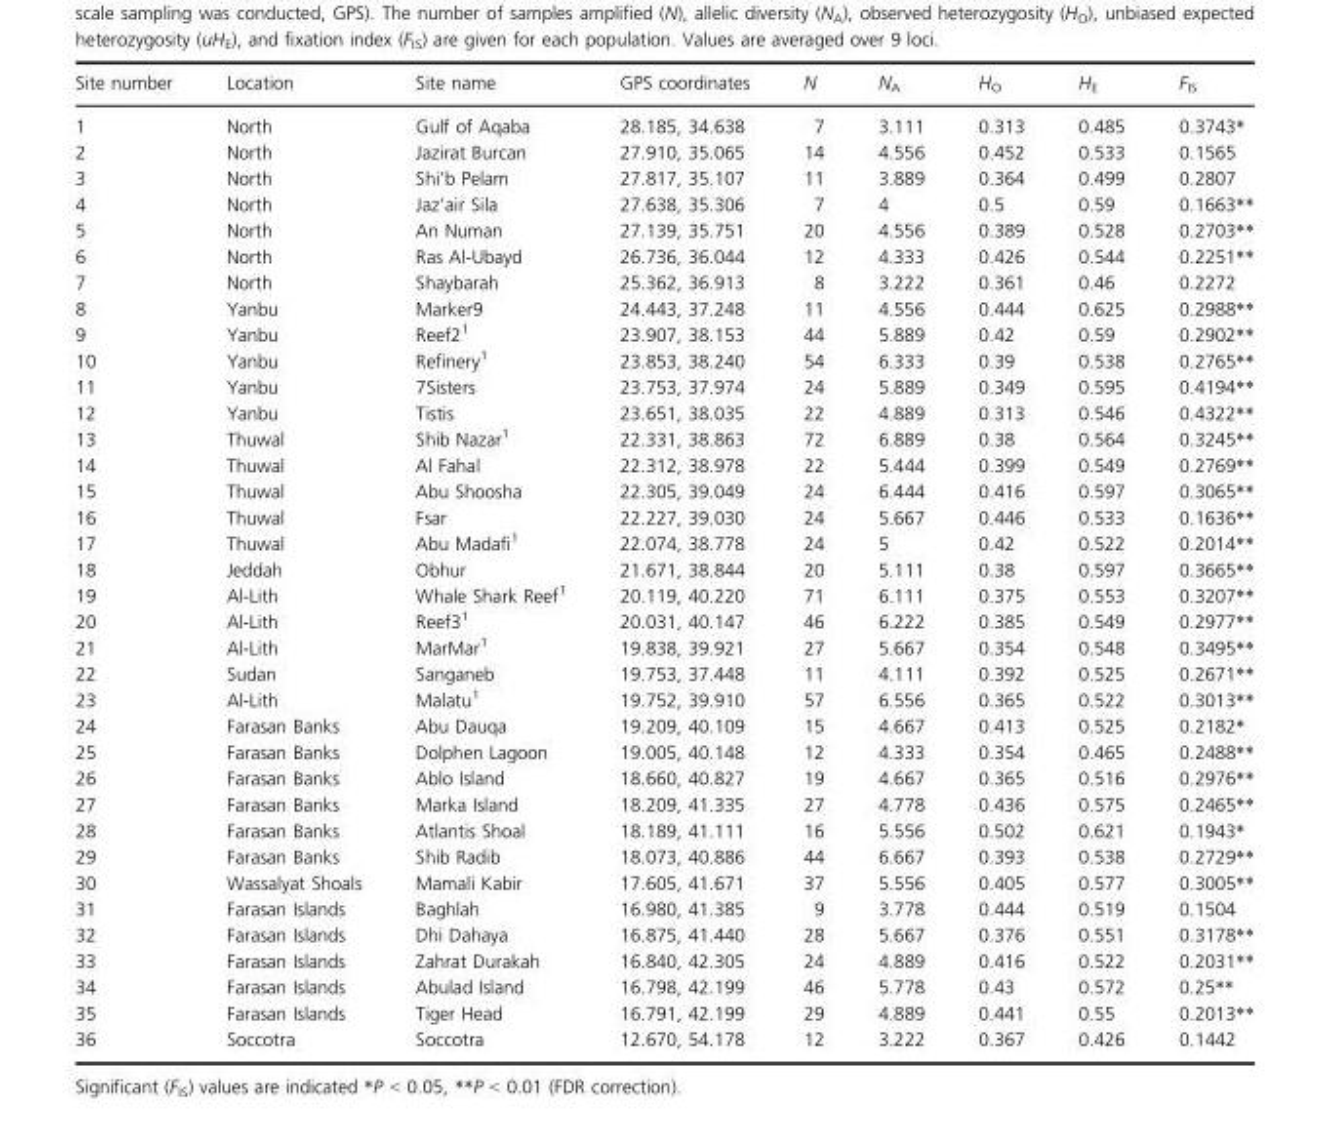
<table><thead><tr><td>Site number</td><td>Location</td><td>Site name</td><td>GPS coordinates</td><td>N</td><td>N<sub>A</sub></td><td>H<sub>O</sub></td><td>H<sub>E</sub></td><td>F<sub>IS</sub></td></tr></thead><tbody><tr><td>1</td><td>North</td><td>Gulf of Aqaba</td><td>28.185, 34.638</td><td>7</td><td>3.111</td><td>0.313</td><td>0.485</td><td>0.3743*</td></tr><tr><td>2</td><td>North</td><td>Jazirat Burcan</td><td>27.910, 35.065</td><td>14</td><td>4.556</td><td>0.452</td><td>0.533</td><td>0.1565</td></tr><tr><td>3</td><td>North</td><td>Shi’b Pelam</td><td>27.817, 35.107</td><td>11</td><td>3.889</td><td>0.364</td><td>0.499</td><td>0.2807</td></tr><tr><td>4</td><td>North</td><td>Jaz’air Sila</td><td>27.638, 35.306</td><td>7</td><td>4</td><td>0.5</td><td>0.59</td><td>0.1663**</td></tr><tr><td>5</td><td>North</td><td>An Numan</td><td>27.139, 35.751</td><td>20</td><td>4.556</td><td>0.389</td><td>0.528</td><td>0.2703**</td></tr><tr><td>6</td><td>North</td><td>Ras Al-Ubayd</td><td>26.736, 36.044</td><td>12</td><td>4.333</td><td>0.426</td><td>0.544</td><td>0.2251**</td></tr><tr><td>7</td><td>North</td><td>Shaybarah</td><td>25.362, 36.913</td><td>8</td><td>3.222</td><td>0.361</td><td>0.46</td><td>0.2272</td></tr><tr><td>8</td><td>Yanbu</td><td>Marker9</td><td>24.443, 37.248</td><td>11</td><td>4.556</td><td>0.444</td><td>0.625</td><td>0.2988**</td></tr><tr><td>9</td><td>Yanbu</td><td>Reef2<sup>1</sup></td><td>23.907, 38.153</td><td>44</td><td>5.889</td><td>0.42</td><td>0.59</td><td>0.2902**</td></tr><tr><td>10</td><td>Yanbu</td><td>Refinery<sup>1</sup></td><td>23.853, 38.240</td><td>54</td><td>6.333</td><td>0.39</td><td>0.538</td><td>0.2765**</td></tr><tr><td>11</td><td>Yanbu</td><td>7Sisters</td><td>23.753, 37.974</td><td>24</td><td>5.889</td><td>0.349</td><td>0.595</td><td>0.4194**</td></tr><tr><td>12</td><td>Yanbu</td><td>Tistis</td><td>23.651, 38.035</td><td>22</td><td>4.889</td><td>0.313</td><td>0.546</td><td>0.4322**</td></tr><tr><td>13</td><td>Thuwal</td><td>Shib Nazar<sup>1</sup></td><td>22.331, 38.863</td><td>72</td><td>6.889</td><td>0.38</td><td>0.564</td><td>0.3245**</td></tr><tr><td>14</td><td>Thuwal</td><td>Al Fahal</td><td>22.312, 38.978</td><td>22</td><td>5.444</td><td>0.399</td><td>0.549</td><td>0.2769**</td></tr><tr><td>15</td><td>Thuwal</td><td>Abu Shoosha</td><td>22.305, 39.049</td><td>24</td><td>6.444</td><td>0.416</td><td>0.597</td><td>0.3065**</td></tr><tr><td>16</td><td>Thuwal</td><td>Fsar</td><td>22.227, 39.030</td><td>24</td><td>5.667</td><td>0.446</td><td>0.533</td><td>0.1636**</td></tr><tr><td>17</td><td>Thuwal</td><td>Abu Madafi<sup>1</sup></td><td>22.074, 38.778</td><td>24</td><td>5</td><td>0.42</td><td>0.522</td><td>0.2014**</td></tr><tr><td>18</td><td>Jeddah</td><td>Obhur</td><td>21.671, 38.844</td><td>20</td><td>5.111</td><td>0.38</td><td>0.597</td><td>0.3665**</td></tr><tr><td>19</td><td>Al-Lith</td><td>Whale Shark Reef<sup>1</sup></td><td>20.119, 40.220</td><td>71</td><td>6.111</td><td>0.375</td><td>0.553</td><td>0.3207**</td></tr><tr><td>20</td><td>Al-Lith</td><td>Reef3<sup>1</sup></td><td>20.031, 40.147</td><td>46</td><td>6.222</td><td>0.385</td><td>0.549</td><td>0.2977**</td></tr><tr><td>21</td><td>Al-Lith</td><td>MarMar<sup>1</sup></td><td>19.838, 39.921</td><td>27</td><td>5.667</td><td>0.354</td><td>0.548</td><td>0.3495**</td></tr><tr><td>22</td><td>Sudan</td><td>Sanganeb</td><td>19.753, 37.448</td><td>11</td><td>4.111</td><td>0.392</td><td>0.525</td><td>0.2671**</td></tr><tr><td>23</td><td>Al-Lith</td><td>Malatu<sup>1</sup></td><td>19.752, 39.910</td><td>57</td><td>6.556</td><td>0.365</td><td>0.522</td><td>0.3013**</td></tr><tr><td>24</td><td>Farasan Banks</td><td>Abu Dauqa</td><td>19.209, 40.109</td><td>15</td><td>4.667</td><td>0.413</td><td>0.525</td><td>0.2182*</td></tr><tr><td>25</td><td>Farasan Banks</td><td>Dolphen Lagoon</td><td>19.005, 40.148</td><td>12</td><td>4.333</td><td>0.354</td><td>0.465</td><td>0.2488**</td></tr><tr><td>26</td><td>Farasan Banks</td><td>Ablo Island</td><td>18.660, 40.827</td><td>19</td><td>4.667</td><td>0.365</td><td>0.516</td><td>0.2976**</td></tr><tr><td>27</td><td>Farasan Banks</td><td>Marka Island</td><td>18.209, 41.335</td><td>27</td><td>4.778</td><td>0.436</td><td>0.575</td><td>0.2465**</td></tr><tr><td>28</td><td>Farasan Banks</td><td>Atlantis Shoal</td><td>18.189, 41.111</td><td>16</td><td>5.556</td><td>0.502</td><td>0.621</td><td>0.1943*</td></tr><tr><td>29</td><td>Farasan Banks</td><td>Shib Radib</td><td>18.073, 40.886</td><td>44</td><td>6.667</td><td>0.393</td><td>0.538</td><td>0.2729**</td></tr><tr><td>30</td><td>Wassalyat Shoals</td><td>Mamali Kabir</td><td>17.605, 41.671</td><td>37</td><td>5.556</td><td>0.405</td><td>0.577</td><td>0.3005**</td></tr><tr><td>31</td><td>Farasan Islands</td><td>Baghlah</td><td>16.980, 41.385</td><td>9</td><td>3.778</td><td>0.444</td><td>0.519</td><td>0.1504</td></tr><tr><td>32</td><td>Farasan Islands</td><td>Dhi Dahaya</td><td>16.875, 41.440</td><td>28</td><td>5.667</td><td>0.376</td><td>0.551</td><td>0.3178**</td></tr><tr><td>33</td><td>Farasan Islands</td><td>Zahrat Durakah</td><td>16.840, 42.305</td><td>24</td><td>4.889</td><td>0.416</td><td>0.522</td><td>0.2031**</td></tr><tr><td>34</td><td>Farasan Islands</td><td>Abulad Island</td><td>16.798, 42.199</td><td>46</td><td>5.778</td><td>0.43</td><td>0.572</td><td>0.25**</td></tr><tr><td>35</td><td>Farasan Islands</td><td>Tiger Head</td><td>16.791, 42.199</td><td>29</td><td>4.889</td><td>0.441</td><td>0.55</td><td>0.2013**</td></tr><tr><td>36</td><td>Soccotra</td><td>Soccotra</td><td>12.670, 54.178</td><td>12</td><td>3.222</td><td>0.367</td><td>0.426</td><td>0.1442</td></tr></tbody></table>